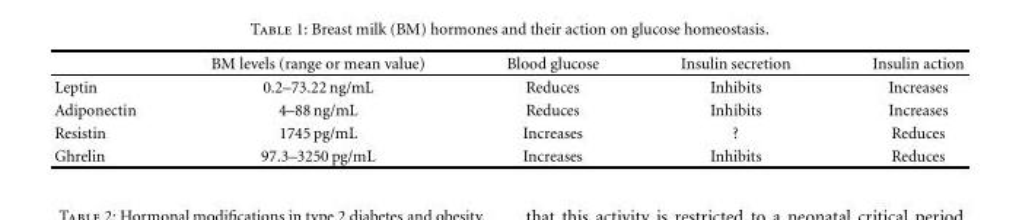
<table><thead><tr><td></td><td>BM levels (range or mean value)</td><td>Blood glucose</td><td>Insulin secretion</td><td>Insulin action</td></tr></thead><tbody><tr><td>Leptin</td><td>0.2–73.22 ng/mL</td><td>Reduces</td><td>Inhibits</td><td>Increases</td></tr><tr><td>Adiponectin</td><td>4–88 ng/mL</td><td>Reduces</td><td>Inhibits</td><td>Increases</td></tr><tr><td>Resistin</td><td>1745 pg/mL</td><td>Increases</td><td>?</td><td>Reduces</td></tr><tr><td>Ghrelin</td><td>97.3–3250 pg/mL</td><td>Increases</td><td>Inhibits</td><td>Reduces</td></tr></tbody></table>